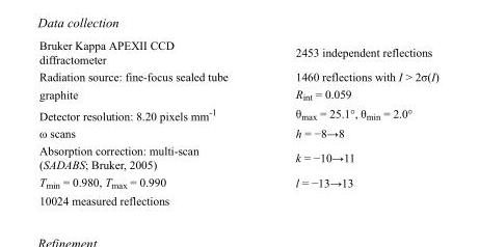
<table><tbody><tr><td>Bruker Kappa APEXII CCD diffractometer</td><td>2453 independent reflections</td></tr><tr><td>Radiation source: fine-focus sealed tube</td><td>1460 reflections with I &gt; 2σ(I)</td></tr><tr><td>graphite</td><td>R<sub>int</sub> = 0.059</td></tr><tr><td>Detector resolution: 8.20 pixels mm<sup>-1</sup></td><td>θ<sub>max</sub> = 25.1°, θ<sub>min</sub> = 2.0°</td></tr><tr><td>ω scans</td><td>h = −8→8</td></tr><tr><td>Absorption correction: multi-scan (SADABS; Bruker, 2005)</td><td>k = −10→11</td></tr><tr><td>T<sub>min</sub> = 0.980, T<sub>max</sub> = 0.990</td><td>l = −13→13</td></tr><tr><td>10024 measured reflections</td><td></td></tr></tbody></table>